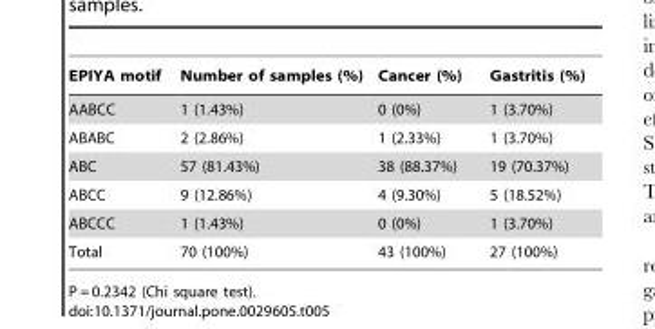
<table><thead><tr><td>EPIYA motif</td><td>Number of samples (%)</td><td>Cancer (%)</td><td>Gastritis (%)</td></tr></thead><tbody><tr><td>AABCC</td><td>1 (1.43%)</td><td>0 (0%)</td><td>1 (3.70%)</td></tr><tr><td>ABABC</td><td>2 (2.86%)</td><td>1 (2.33%)</td><td>1 (3.70%)</td></tr><tr><td>ABC</td><td>57 (81.43%)</td><td>38 (88.37%)</td><td>19 (70.37%)</td></tr><tr><td>ABCC</td><td>9 (12.86%)</td><td>4 (9.30%)</td><td>5 (18.52%)</td></tr><tr><td>ABCCC</td><td>1 (1.43%)</td><td>0 (0%)</td><td>1 (3.70%)</td></tr><tr><td>Total</td><td>70 (100%)</td><td>43 (100%)</td><td>27 (100%)</td></tr></tbody></table>